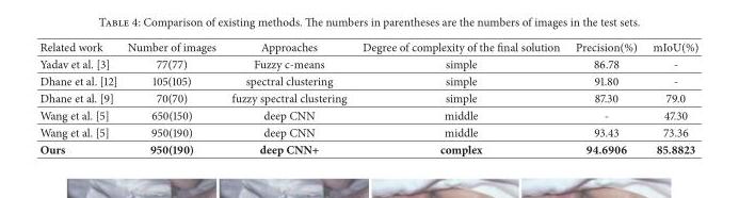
<table><thead><tr><td>Related work</td><td>Number of images</td><td>Approaches</td><td>Degree of complexity of the final solution</td><td>Precision(%)</td><td>mIoU(%)</td></tr></thead><tbody><tr><td>Yadav et al. [3]</td><td>77(77)</td><td>Fuzzy c-means</td><td>simple</td><td>86.78</td><td>-</td></tr><tr><td>Dhane et al. [12]</td><td>105(105)</td><td>spectral clustering</td><td>simple</td><td>91.80</td><td>-</td></tr><tr><td>Dhane et al. [9]</td><td>70(70)</td><td>fuzzy spectral clustering</td><td>simple</td><td>87.30</td><td>79.0</td></tr><tr><td>Wang et al. [5]</td><td>650(150)</td><td>deep CNN</td><td>middle</td><td>-</td><td>47.30</td></tr><tr><td>Wang et al. [5]</td><td>950(190)</td><td>deep CNN</td><td>middle</td><td>93.43</td><td>73.36</td></tr><tr><td>Ours</td><td>950(190)</td><td>deep CNN+</td><td>complex</td><td>94.6906</td><td>85.8823</td></tr></tbody></table>